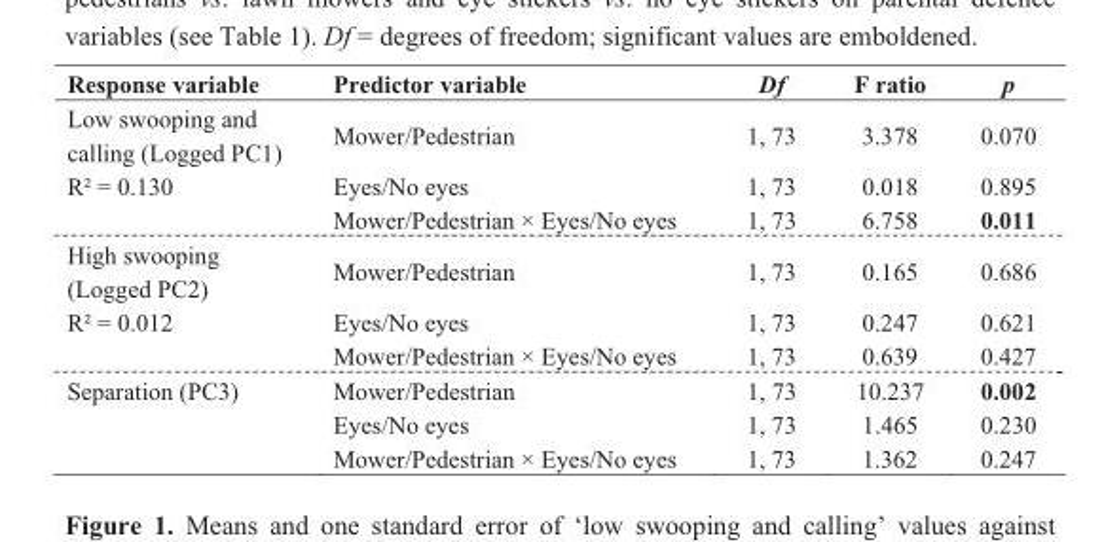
<table><thead><tr><td>Response variable</td><td>Predictor variable</td><td>Df</td><td>F ratio</td><td>p</td></tr></thead><tbody><tr><td>Low swooping and calling (Logged PC1)</td><td>Mower/Pedestrian</td><td>1, 73</td><td>3.378</td><td>0.070</td></tr><tr><td rowspan="2">R² = 0.130</td><td>Eyes/No eyes</td><td>1, 73</td><td>0.018</td><td>0.895</td></tr><tr><td>Mower/Pedestrian × Eyes/No eyes</td><td>1, 73</td><td>6.758</td><td>0.011</td></tr><tr><td>High swooping (Logged PC2)</td><td>Mower/Pedestrian</td><td>1, 73</td><td>0.165</td><td>0.686</td></tr><tr><td rowspan="2">R² = 0.012</td><td>Eyes/No eyes</td><td>1, 73</td><td>0.247</td><td>0.621</td></tr><tr><td>Mower/Pedestrian × Eyes/No eyes</td><td>1, 73</td><td>0.639</td><td>0.427</td></tr><tr><td rowspan="3">Separation (PC3)</td><td>Mower/Pedestrian</td><td>1, 73</td><td>10.237</td><td>0.002</td></tr><tr><td>Eyes/No eyes</td><td>1, 73</td><td>1.465</td><td>0.230</td></tr><tr><td>Mower/Pedestrian × Eyes/No eyes</td><td>1, 73</td><td>1.362</td><td>0.247</td></tr></tbody></table>